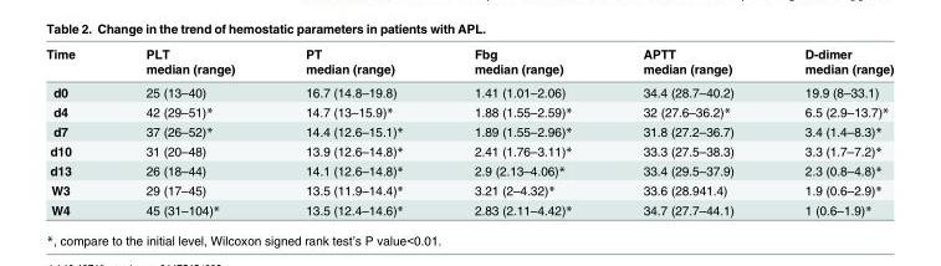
<table><thead><tr><td rowspan="2">Time</td><td rowspan="2">PLT median (range)</td><td rowspan="2">PT median (range)</td><td rowspan="2">Fbg median (range)</td><td rowspan="2">APTT median (range)</td><td rowspan="2">D-dimer median (range)</td></tr><tr></tr></thead><tbody><tr><td>d0</td><td>25 (13–40)</td><td>16.7 (14.8–19.8)</td><td>1.41 (1.01–2.06)</td><td>34.4 (28.7–40.2)</td><td>19.9 (8–33.1)</td></tr><tr><td>d4</td><td>42 (29–51)*</td><td>14.7 (13–15.9)*</td><td>1.88 (1.55–2.59)*</td><td>32 (27.6–36.2)*</td><td>6.5 (2.9–13.7)*</td></tr><tr><td>d7</td><td>37 (26–52)*</td><td>14.4 (12.6–15.1)*</td><td>1.89 (1.55–2.96)*</td><td>31.8 (27.2–36.7)</td><td>3.4 (1.4–8.3)*</td></tr><tr><td>d10</td><td>31 (20–48)</td><td>13.9 (12.6–14.8)*</td><td>2.41 (1.76–3.11)*</td><td>33.3 (27.5–38.3)</td><td>3.3 (1.7–7.2)*</td></tr><tr><td>d13</td><td>26 (18–44)</td><td>14.1 (12.6–14.8)*</td><td>2.9 (2.13–4.06)*</td><td>33.4 (29.5–37.9)</td><td>2.3 (0.8–4.8)*</td></tr><tr><td>W3</td><td>29 (17–45)</td><td>13.5 (11.9–14.4)*</td><td>3.21 (2–4.32)*</td><td>33.6 (28.941.4)</td><td>1.9 (0.6–2.9)*</td></tr><tr><td>W4</td><td>45 (31–104)*</td><td>13.5 (12.4–14.6)*</td><td>2.83 (2.11–4.42)*</td><td>34.7 (27.7–44.1)</td><td>1 (0.6–1.9)*</td></tr></tbody></table>